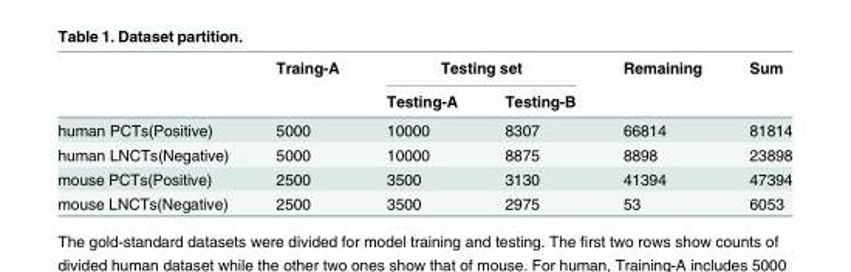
<table><thead><tr><td rowspan="2"></td><td rowspan="2">Traing-A</td><td colspan="2">Testing set</td><td rowspan="2">Remaining</td><td rowspan="2">Sum</td></tr><tr><td>Testing-A</td><td>Testing-B</td></tr></thead><tbody><tr><td>human PCTs(Positive)</td><td>5000</td><td>10000</td><td>8307</td><td>66814</td><td>81814</td></tr><tr><td>human LNCTs(Negative)</td><td>5000</td><td>10000</td><td>8875</td><td>8898</td><td>23898</td></tr><tr><td>mouse PCTs(Positive)</td><td>2500</td><td>3500</td><td>3130</td><td>41394</td><td>47394</td></tr><tr><td>mouse LNCTs(Negative)</td><td>2500</td><td>3500</td><td>2975</td><td>53</td><td>6053</td></tr></tbody></table>